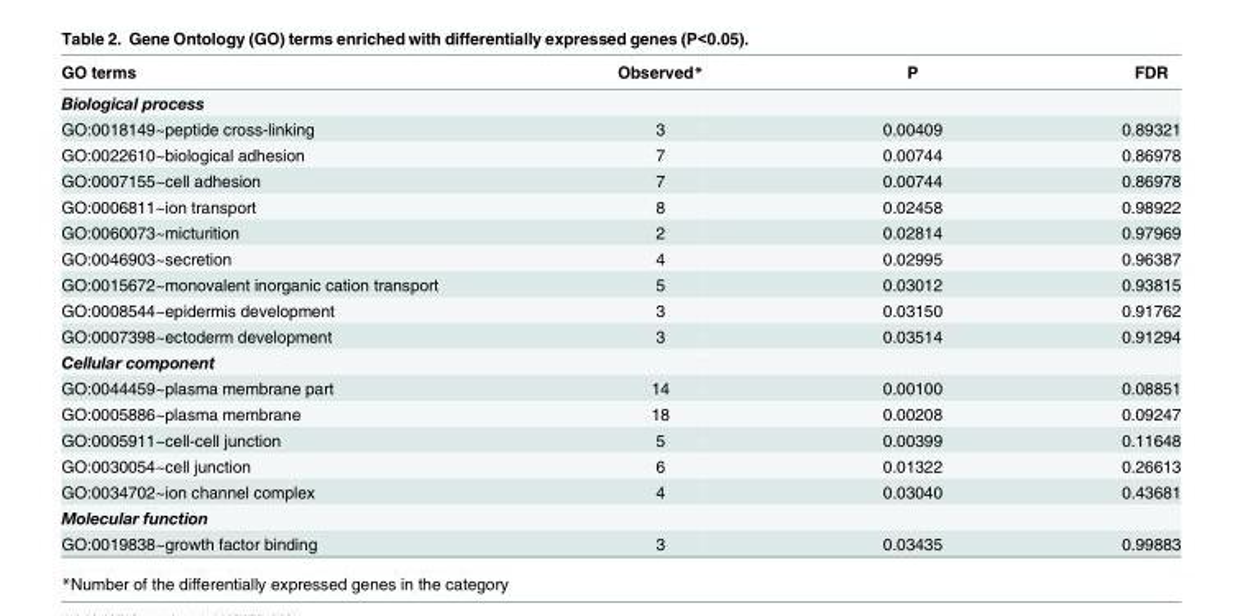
<table><thead><tr><td>GO terms</td><td>Observed*</td><td>P</td><td>FDR</td></tr></thead><tbody><tr><td colspan="4">Biological process</td></tr><tr><td>GO:0018149~peptide cross-linking</td><td>3</td><td>0.00409</td><td>0.89321</td></tr><tr><td>GO:0022610~biological adhesion</td><td>7</td><td>0.00744</td><td>0.86978</td></tr><tr><td>GO:0007155~cell adhesion</td><td>7</td><td>0.00744</td><td>0.86978</td></tr><tr><td>GO:0006811~ion transport</td><td>8</td><td>0.02458</td><td>0.98922</td></tr><tr><td>GO:0060073~micturition</td><td>2</td><td>0.02814</td><td>0.97969</td></tr><tr><td>GO:0046903~secretion</td><td>4</td><td>0.02995</td><td>0.96387</td></tr><tr><td>GO:0015672~monovalent inorganic cation transport</td><td>5</td><td>0.03012</td><td>0.93815</td></tr><tr><td>GO:0008544~epidermis development</td><td>3</td><td>0.03150</td><td>0.91762</td></tr><tr><td>GO:0007398~ectoderm development</td><td>3</td><td>0.03514</td><td>0.91294</td></tr><tr><td colspan="4">Cellular component</td></tr><tr><td>GO:0044459~plasma membrane part</td><td>14</td><td>0.00100</td><td>0.08851</td></tr><tr><td>GO:0005886~plasma membrane</td><td>18</td><td>0.00208</td><td>0.09247</td></tr><tr><td>GO:0005911~cell-cell junction</td><td>5</td><td>0.00399</td><td>0.11648</td></tr><tr><td>GO:0030054~cell junction</td><td>6</td><td>0.01322</td><td>0.26613</td></tr><tr><td>GO:0034702~ion channel complex</td><td>4</td><td>0.03040</td><td>0.43681</td></tr><tr><td colspan="4">Molecular function</td></tr><tr><td>GO:0019838~growth factor binding</td><td>3</td><td>0.03435</td><td>0.99883</td></tr></tbody></table>